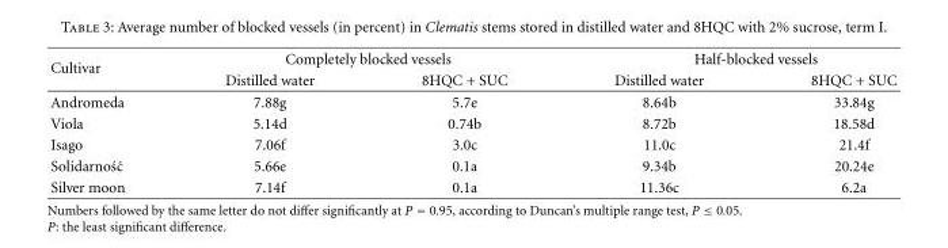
<table><thead><tr><td rowspan="2">Cultivar</td><td colspan="2">Completely blocked vessels</td><td colspan="2">Half-blocked vessels</td></tr><tr><td>Distilled water</td><td>8HQC + SUC</td><td>Distilled water</td><td>8HQC + SUC</td></tr></thead><tbody><tr><td>Andromeda</td><td>7.88g</td><td>5.7e</td><td>8.64b</td><td>33.84g</td></tr><tr><td>Viola</td><td>5.14d</td><td>0.74b</td><td>8.72b</td><td>18.58d</td></tr><tr><td>Isago</td><td>7.06f</td><td>3.0c</td><td>11.0c</td><td>21.4f</td></tr><tr><td>Solidarno´s´c</td><td>5.66e</td><td>0.1a</td><td>9.34b</td><td>20.24e</td></tr><tr><td>Silver moon</td><td>7.14f</td><td>0.1a</td><td>11.36c</td><td>6.2a</td></tr></tbody></table>